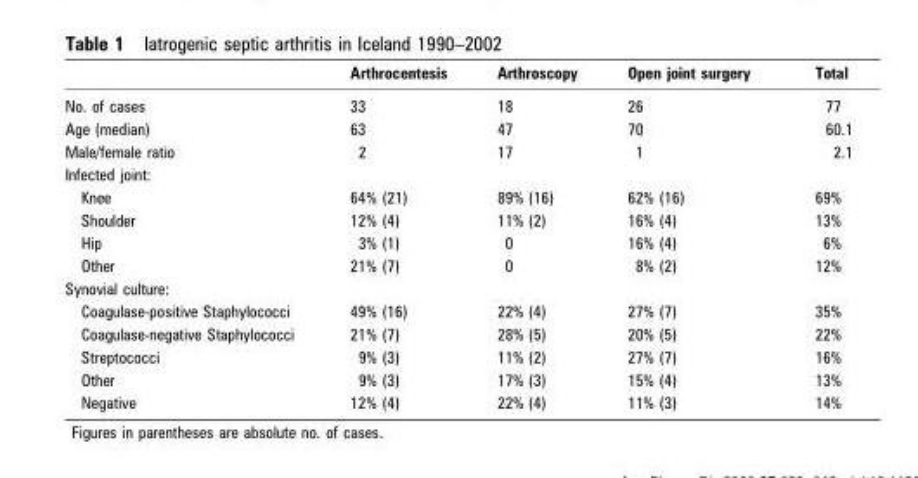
<table><thead><tr><td></td><td>Arthrocentesis</td><td>Arthroscopy</td><td>Open joint surgery</td><td>Total</td></tr></thead><tbody><tr><td>No. of cases</td><td>33</td><td>18</td><td>26</td><td>77</td></tr><tr><td>Age (median)</td><td>63</td><td>47</td><td>70</td><td>60.1</td></tr><tr><td>Male/female ratio</td><td>2</td><td>17</td><td>1</td><td>2.1</td></tr><tr><td colspan="5">Infected joint:</td></tr><tr><td>Knee</td><td>64% (21)</td><td>89% (16)</td><td>62% (16)</td><td>69%</td></tr><tr><td>Shoulder</td><td>12% (4)</td><td>11% (2)</td><td>16% (4)</td><td>13%</td></tr><tr><td>Hip</td><td>3% (1)</td><td>0</td><td>16% (4)</td><td>6%</td></tr><tr><td>Other</td><td>21% (7)</td><td>0</td><td>8% (2)</td><td>12%</td></tr><tr><td colspan="5">Synovial culture:</td></tr><tr><td>Coagulase-positive Staphylococci</td><td>49% (16)</td><td>22% (4)</td><td>27% (7)</td><td>35%</td></tr><tr><td>Coagulase-negative Staphylococci</td><td>21% (7)</td><td>28% (5)</td><td>20% (5)</td><td>22%</td></tr><tr><td>Streptococci</td><td>9% (3)</td><td>11% (2)</td><td>27% (7)</td><td>16%</td></tr><tr><td>Other</td><td>9% (3)</td><td>17% (3)</td><td>15% (4)</td><td>13%</td></tr><tr><td>Negative</td><td>12% (4)</td><td>22% (4)</td><td>11% (3)</td><td>14%</td></tr></tbody></table>